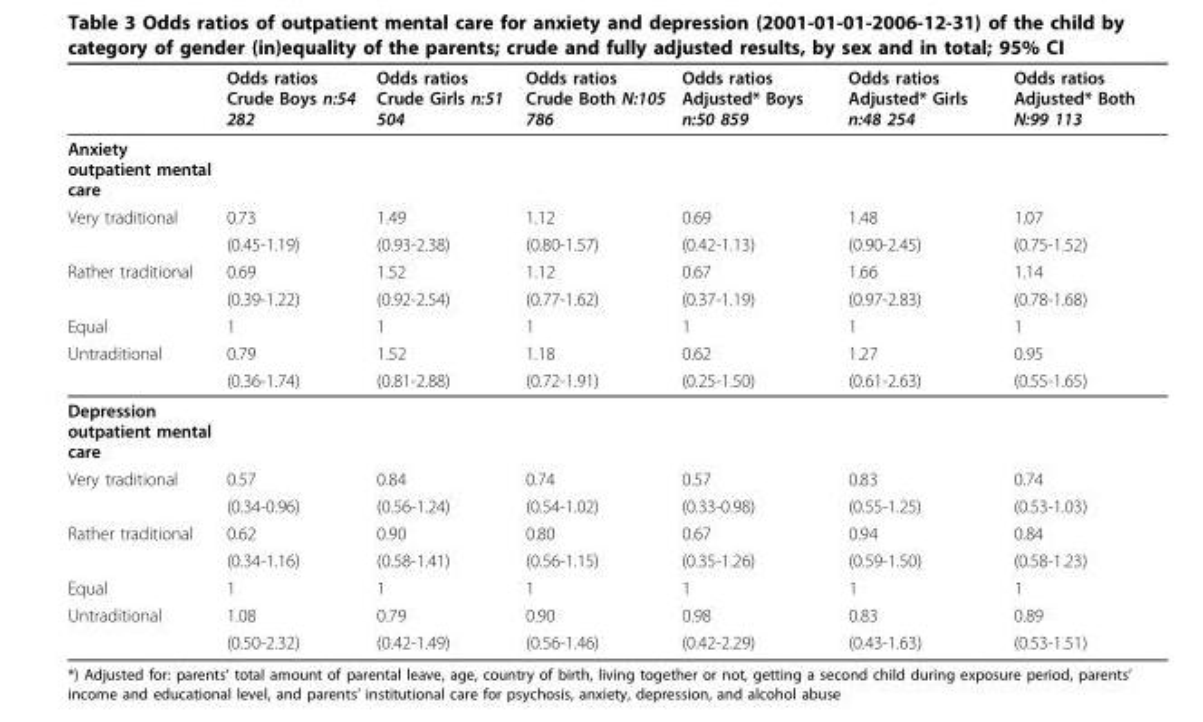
<table><thead><tr><td></td><td>Odds ratios Crude Boys n:54 282</td><td>Odds ratios Crude Girls n:51 504</td><td>Odds ratios Crude Both N:105 786</td><td>Odds ratios Adjusted* Boys n:50 859</td><td>Odds ratios Adjusted* Girls n:48 254</td><td>Odds ratios Adjusted* Both N:99 113</td></tr></thead><tbody><tr><td colspan="7">Anxiety outpatient mental care</td></tr><tr><td rowspan="2">Very traditional</td><td>0.73</td><td>1.49</td><td>1.12</td><td>0.69</td><td>1.48</td><td>1.07</td></tr><tr><td>(0.45-1.19)</td><td>(0.93-2.38)</td><td>(0.80-1.57)</td><td>(0.42-1.13)</td><td>(0.90-2.45)</td><td>(0.75-1.52)</td></tr><tr><td rowspan="2">Rather traditional</td><td>0.69</td><td>1.52</td><td>1.12</td><td>0.67</td><td>1.66</td><td>1.14</td></tr><tr><td>(0.39-1.22)</td><td>(0.92-2.54)</td><td>(0.77-1.62)</td><td>(0.37-1.19)</td><td>(0.97-2.83)</td><td>(0.78-1.68)</td></tr><tr><td>Equal</td><td>1</td><td>1</td><td>1</td><td>1</td><td>1</td><td>1</td></tr><tr><td rowspan="2">Untraditional</td><td>0.79</td><td>1.52</td><td>1.18</td><td>0.62</td><td>1.27</td><td>0.95</td></tr><tr><td>(0.36-1.74)</td><td>(0.81-2.88)</td><td>(0.72-1.91)</td><td>(0.25-1.50)</td><td>(0.61-2.63)</td><td>(0.55-1.65)</td></tr><tr><td colspan="7">Depression outpatient mental care</td></tr><tr><td rowspan="2">Very traditional</td><td>0.57</td><td>0.84</td><td>0.74</td><td>0.57</td><td>0.83</td><td>0.74</td></tr><tr><td>(0.34-0.96)</td><td>(0.56-1.24)</td><td>(0.54-1.02)</td><td>(0.33-0.98)</td><td>(0.55-1.25)</td><td>(0.53-1.03)</td></tr><tr><td rowspan="2">Rather traditional</td><td>0.62</td><td>0.90</td><td>0.80</td><td>0.67</td><td>0.94</td><td>0.84</td></tr><tr><td>(0.34-1.16)</td><td>(0.58-1.41)</td><td>(0.56-1.15)</td><td>(0.35-1.26)</td><td>(0.59-1.50)</td><td>(0.58-1.23)</td></tr><tr><td>Equal</td><td>1</td><td>1</td><td>1</td><td>1</td><td>1</td><td>1</td></tr><tr><td rowspan="2">Untraditional</td><td>1.08</td><td>0.79</td><td>0.90</td><td>0.98</td><td>0.83</td><td>0.89</td></tr><tr><td>(0.50-2.32)</td><td>(0.42-1.49)</td><td>(0.56-1.46)</td><td>(0.42-2.29)</td><td>(0.43-1.63)</td><td>(0.53-1.51)</td></tr></tbody></table>